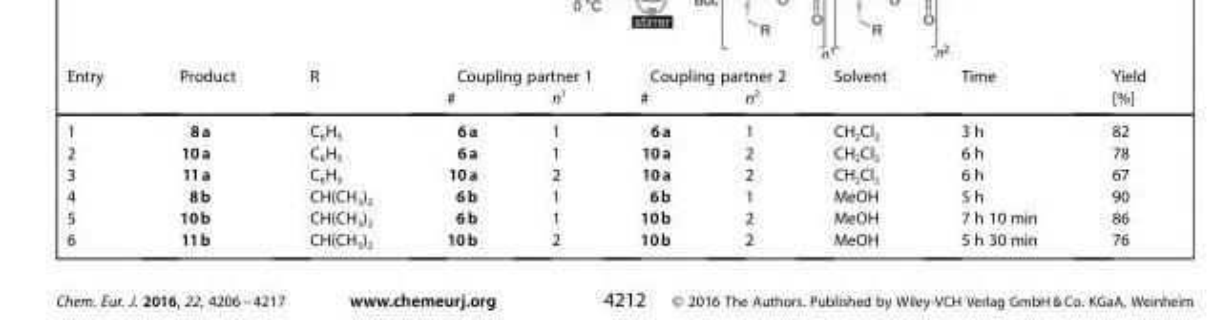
<table><thead><tr><td rowspan="2">Entry</td><td rowspan="2">Product</td><td rowspan="2">R</td><td colspan="2">Coupling partner 1</td><td colspan="2">Coupling partner 2</td><td rowspan="2">Solvent</td><td rowspan="2">Time</td><td rowspan="2">Yield [%]</td></tr><tr><td>#</td><td>n<sup>1</sup></td><td>#</td><td>n<sup>2</sup></td></tr></thead><tbody><tr><td>1</td><td>8a</td><td>C<sub>6</sub>H<sub>5</sub></td><td>6a</td><td>1</td><td>6a</td><td>1</td><td>CH<sub>2</sub>Cl<sub>2</sub></td><td>3 h</td><td>82</td></tr><tr><td>2</td><td>10a</td><td>C<sub>6</sub>H<sub>5</sub></td><td>6a</td><td>1</td><td>10a</td><td>2</td><td>CH<sub>2</sub>Cl<sub>2</sub></td><td>6 h</td><td>78</td></tr><tr><td>3</td><td>11a</td><td>C<sub>6</sub>H<sub>5</sub></td><td>10a</td><td>2</td><td>10a</td><td>2</td><td>CH<sub>2</sub>Cl<sub>2</sub></td><td>6 h</td><td>67</td></tr><tr><td>4</td><td>8b</td><td>CH(CH<sub>3</sub>)<sub>2</sub></td><td>6b</td><td>1</td><td>6b</td><td>1</td><td>MeOH</td><td>5 h</td><td>90</td></tr><tr><td>5</td><td>10b</td><td>CH(CH<sub>3</sub>)<sub>2</sub></td><td>6b</td><td>1</td><td>10b</td><td>2</td><td>MeOH</td><td>7 h 10 min</td><td>86</td></tr><tr><td>6</td><td>11b</td><td>CH(CH<sub>3</sub>)<sub>2</sub></td><td>10b</td><td>2</td><td>10b</td><td>2</td><td>MeOH</td><td>5 h 30 min</td><td>76</td></tr></tbody></table>